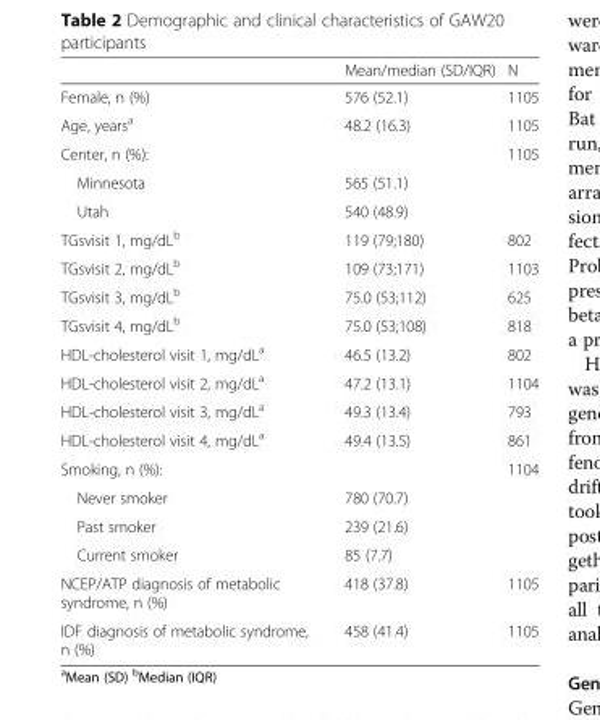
<table><thead><tr><td></td><td>Mean/median (SD/IQR)</td><td>N</td></tr></thead><tbody><tr><td>Female, n (%)</td><td>576 (52.1)</td><td>1105</td></tr><tr><td>Age, years<sup>a</sup></td><td>48.2 (16.3)</td><td>1105</td></tr><tr><td>Center, n (%):</td><td></td><td>1105</td></tr><tr><td>Minnesota</td><td>565 (51.1)</td><td></td></tr><tr><td>Utah</td><td>540 (48.9)</td><td></td></tr><tr><td>TGsvisit 1, mg/dL<sup>b</sup></td><td>119 (79;180)</td><td>802</td></tr><tr><td>TGsvisit 2, mg/dL<sup>b</sup></td><td>109 (73;171)</td><td>1103</td></tr><tr><td>TGsvisit 3, mg/dL<sup>b</sup></td><td>75.0 (53;112)</td><td>625</td></tr><tr><td>TGsvisit 4, mg/dL<sup>b</sup></td><td>75.0 (53;108)</td><td>818</td></tr><tr><td>HDL-cholesterol visit 1, mg/dL<sup>a</sup></td><td>46.5 (13.2)</td><td>802</td></tr><tr><td>HDL-cholesterol visit 2, mg/dL<sup>a</sup></td><td>47.2 (13.1)</td><td>1104</td></tr><tr><td>HDL-cholesterol visit 3, mg/dL<sup>a</sup></td><td>49.3 (13.4)</td><td>793</td></tr><tr><td>HDL-cholesterol visit 4, mg/dL<sup>a</sup></td><td>49.4 (13.5)</td><td>861</td></tr><tr><td>Smoking, n (%):</td><td></td><td>1104</td></tr><tr><td>Never smoker</td><td>780 (70.7)</td><td></td></tr><tr><td>Past smoker</td><td>239 (21.6)</td><td></td></tr><tr><td>Current smoker</td><td>85 (7.7)</td><td></td></tr><tr><td>NCEP/ATP diagnosis of metabolic syndrome, n (%)</td><td>418 (37.8)</td><td>1105</td></tr><tr><td>IDF diagnosis of metabolic syndrome, n (%)</td><td>458 (41.4)</td><td>1105</td></tr></tbody></table>